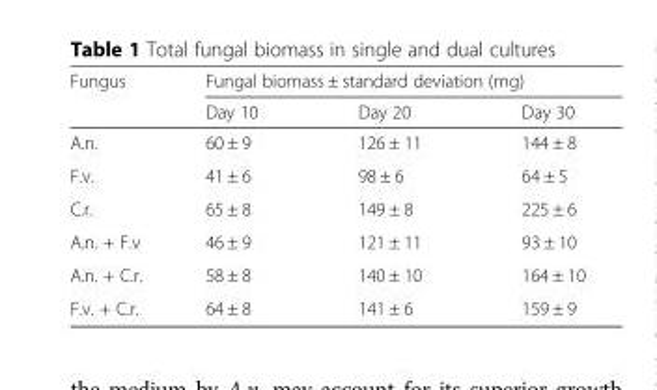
<table><thead><tr><td rowspan="2">Fungus</td><td colspan="3">Fungal biomass ± standard deviation (mg)</td></tr><tr><td>Day 10</td><td>Day 20</td><td>Day 30</td></tr></thead><tbody><tr><td>A.n.</td><td>60 ± 9</td><td>126 ± 11</td><td>144 ± 8</td></tr><tr><td>F.v.</td><td>41 ± 6</td><td>98 ± 6</td><td>64 ± 5</td></tr><tr><td>C.r.</td><td>65 ± 8</td><td>149 ± 8</td><td>225 ± 6</td></tr><tr><td>A.n. + F.v</td><td>46 ± 9</td><td>121 ± 11</td><td>93 ± 10</td></tr><tr><td>A.n. + C.r.</td><td>58 ± 8</td><td>140 ± 10</td><td>164 ± 10</td></tr><tr><td>F.v. + C.r.</td><td>64 ± 8</td><td>141 ± 6</td><td>159 ± 9</td></tr></tbody></table>